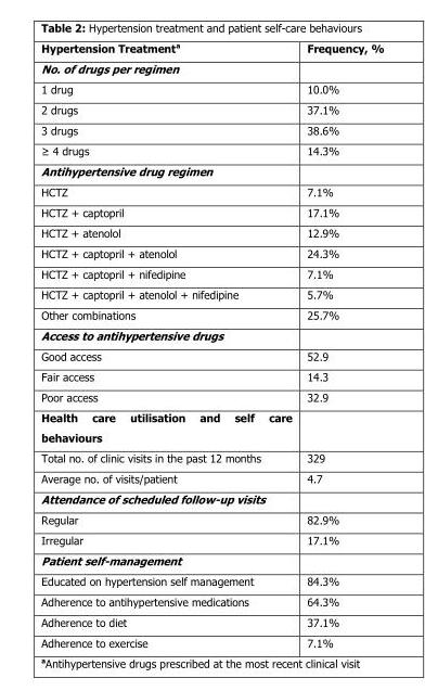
<table><thead><tr><td>Hypertension Treatment<sup>a</sup></td><td>Frequency, %</td></tr></thead><tbody><tr><td colspan="2">No. of drugs per regimen</td></tr><tr><td>1 drug</td><td>10.0%</td></tr><tr><td>2 drugs</td><td>37.1%</td></tr><tr><td>3 drugs</td><td>38.6%</td></tr><tr><td>≥ 4 drugs</td><td>14.3%</td></tr><tr><td colspan="2">Antihypertensive drug regimen</td></tr><tr><td>HCTZ</td><td>7.1%</td></tr><tr><td>HCTZ + captopril</td><td>17.1%</td></tr><tr><td>HCTZ + atenolol</td><td>12.9%</td></tr><tr><td>HCTZ + captopril + atenolol</td><td>24.3%</td></tr><tr><td>HCTZ + captopril + nifedipine</td><td>7.1%</td></tr><tr><td>HCTZ + captopril + atenolol + nifedipine</td><td>5.7%</td></tr><tr><td>Other combinations</td><td>25.7%</td></tr><tr><td colspan="2">Access to antihypertensive drugs</td></tr><tr><td>Good access</td><td>52.9</td></tr><tr><td>Fair access</td><td>14.3</td></tr><tr><td>Poor access</td><td>32.9</td></tr><tr><td colspan="2">Health care utilisation and self care behaviours</td></tr><tr><td>Total no. of clinic visits in the past 12 months</td><td>329</td></tr><tr><td>Average no. of visits/patient</td><td>4.7</td></tr><tr><td colspan="2">Attendance of scheduled follow-up visits</td></tr><tr><td>Regular</td><td>82.9%</td></tr><tr><td>Irregular</td><td>17.1%</td></tr><tr><td colspan="2">Patient self-management</td></tr><tr><td>Educated on hypertension self management</td><td>84.3%</td></tr><tr><td>Adherence to antihypertensive medications</td><td>64.3%</td></tr><tr><td>Adherence to diet</td><td>37.1%</td></tr><tr><td>Adherence to exercise</td><td>7.1%</td></tr></tbody></table>